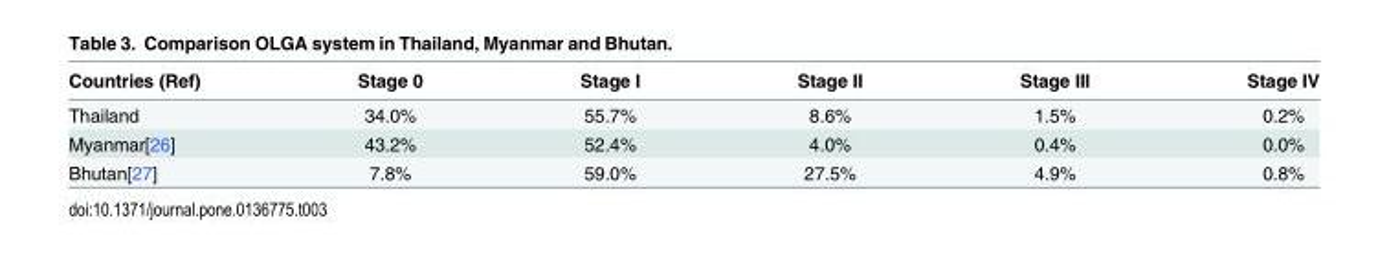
<table><thead><tr><td>Countries (Ref)</td><td>Stage 0</td><td>Stage I</td><td>Stage II</td><td>Stage III</td><td>Stage IV</td></tr></thead><tbody><tr><td>Thailand</td><td>34.0%</td><td>55.7%</td><td>8.6%</td><td>1.5%</td><td>0.2%</td></tr><tr><td>Myanmar[26]</td><td>43.2%</td><td>52.4%</td><td>4.0%</td><td>0.4%</td><td>0.0%</td></tr><tr><td>Bhutan[27]</td><td>7.8%</td><td>59.0%</td><td>27.5%</td><td>4.9%</td><td>0.8%</td></tr></tbody></table>